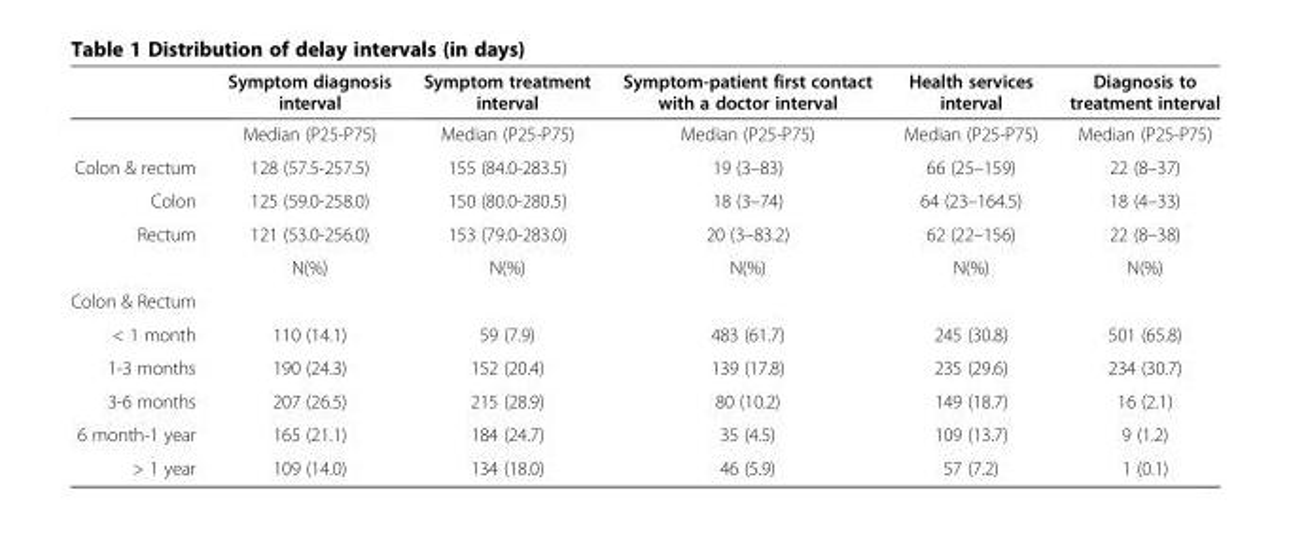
<table><thead><tr><td></td><td>Symptom diagnosis interval</td><td>Symptom treatment interval</td><td>Symptom-patient first contact with a doctor interval</td><td>Health services interval</td><td>Diagnosis to treatment interval</td></tr></thead><tbody><tr><td></td><td>Median (P25-P75)</td><td>Median (P25-P75)</td><td>Median (P25-P75)</td><td>Median (P25-P75)</td><td>Median (P25-P75)</td></tr><tr><td>Colon &amp; rectum</td><td>128 (57.5-257.5)</td><td>155 (84.0-283.5)</td><td>19 (3–83)</td><td>66 (25–159)</td><td>22 (8–37)</td></tr><tr><td>Colon</td><td>125 (59.0-258.0)</td><td>150 (80.0-280.5)</td><td>18 (3–74)</td><td>64 (23–164.5)</td><td>18 (4–33)</td></tr><tr><td rowspan="2">Rectum</td><td>121 (53.0-256.0)</td><td>153 (79.0-283.0)</td><td>20 (3–83.2)</td><td>62 (22–156)</td><td>22 (8–38)</td></tr><tr><td>N(%)</td><td>N(%)</td><td>N(%)</td><td>N(%)</td><td>N(%)</td></tr><tr><td colspan="6">Colon &amp; Rectum</td></tr><tr><td>&lt; 1 month</td><td>110 (14.1)</td><td>59 (7.9)</td><td>483 (61.7)</td><td>245 (30.8)</td><td>501 (65.8)</td></tr><tr><td>1-3 months</td><td>190 (24.3)</td><td>152 (20.4)</td><td>139 (17.8)</td><td>235 (29.6)</td><td>234 (30.7)</td></tr><tr><td>3-6 months</td><td>207 (26.5)</td><td>215 (28.9)</td><td>80 (10.2)</td><td>149 (18.7)</td><td>16 (2.1)</td></tr><tr><td>6 month-1 year</td><td>165 (21.1)</td><td>184 (24.7)</td><td>35 (4.5)</td><td>109 (13.7)</td><td>9 (1.2)</td></tr><tr><td>&gt; 1 year</td><td>109 (14.0)</td><td>134 (18.0)</td><td>46 (5.9)</td><td>57 (7.2)</td><td>1 (0.1)</td></tr></tbody></table>